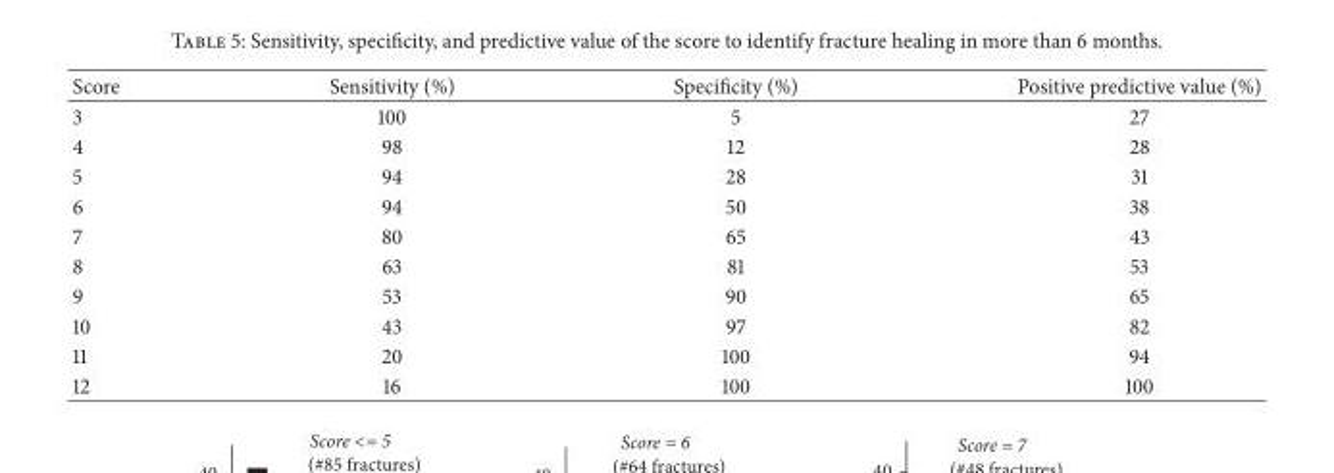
<table><thead><tr><td>Score</td><td>Sensitivity (%)</td><td>Specificity (%)</td><td>Positive predictive value (%)</td></tr></thead><tbody><tr><td>3</td><td>100</td><td>5</td><td>27</td></tr><tr><td>4</td><td>98</td><td>12</td><td>28</td></tr><tr><td>5</td><td>94</td><td>28</td><td>31</td></tr><tr><td>6</td><td>94</td><td>50</td><td>38</td></tr><tr><td>7</td><td>80</td><td>65</td><td>43</td></tr><tr><td>8</td><td>63</td><td>81</td><td>53</td></tr><tr><td>9</td><td>53</td><td>90</td><td>65</td></tr><tr><td>10</td><td>43</td><td>97</td><td>82</td></tr><tr><td>11</td><td>20</td><td>100</td><td>94</td></tr><tr><td>12</td><td>16</td><td>100</td><td>100</td></tr></tbody></table>